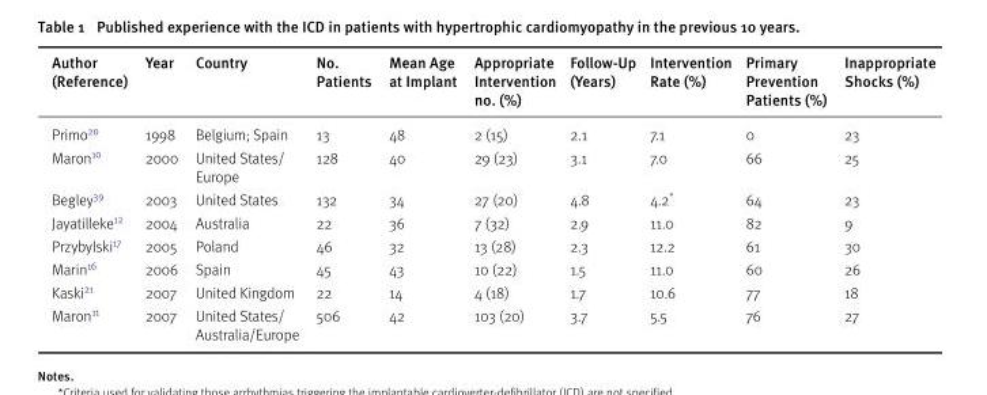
<table><thead><tr><td>Author (Reference)</td><td>Year</td><td>Country</td><td>No. Patients</td><td>Mean Age at Implant</td><td>Appropriate Intervention no. (%)</td><td>Follow-Up (Years)</td><td>Intervention Rate (%)</td><td>Primary Prevention Patients (%)</td><td>Inappropriate Shocks (%)</td></tr></thead><tbody><tr><td>Primo<sup>20</sup></td><td>1998</td><td>Belgium; Spain</td><td>13</td><td>48</td><td>2 (15)</td><td>2.1</td><td>7.1</td><td>0</td><td>23</td></tr><tr><td>Maron<sup>10</sup></td><td>2000</td><td>United States/ Europe</td><td>128</td><td>40</td><td>29 (23)</td><td>3.1</td><td>7.0</td><td>66</td><td>25</td></tr><tr><td>Begley<sup>39</sup></td><td>2003</td><td>United States</td><td>132</td><td>34</td><td>27 (20)</td><td>4.8</td><td>4.2*</td><td>64</td><td>23</td></tr><tr><td>Jayatilleke<sup>12</sup></td><td>2004</td><td>Australia</td><td>22</td><td>36</td><td>7 (32)</td><td>2.9</td><td>11.0</td><td>82</td><td>9</td></tr><tr><td>Przybylski<sup>17</sup></td><td>2005</td><td>Poland</td><td>46</td><td>32</td><td>13 (28)</td><td>2.3</td><td>12.2</td><td>61</td><td>30</td></tr><tr><td>Marin<sup>16</sup></td><td>2006</td><td>Spain</td><td>45</td><td>43</td><td>10 (22)</td><td>1.5</td><td>11.0</td><td>60</td><td>26</td></tr><tr><td>Kaski<sup>21</sup></td><td>2007</td><td>United Kingdom</td><td>22</td><td>14</td><td>4 (18)</td><td>1.7</td><td>10.6</td><td>77</td><td>18</td></tr><tr><td>Maron<sup>11</sup></td><td>2007</td><td>United States/ Australia/Europe</td><td>506</td><td>42</td><td>103 (20)</td><td>3.7</td><td>5.5</td><td>76</td><td>27</td></tr></tbody></table>